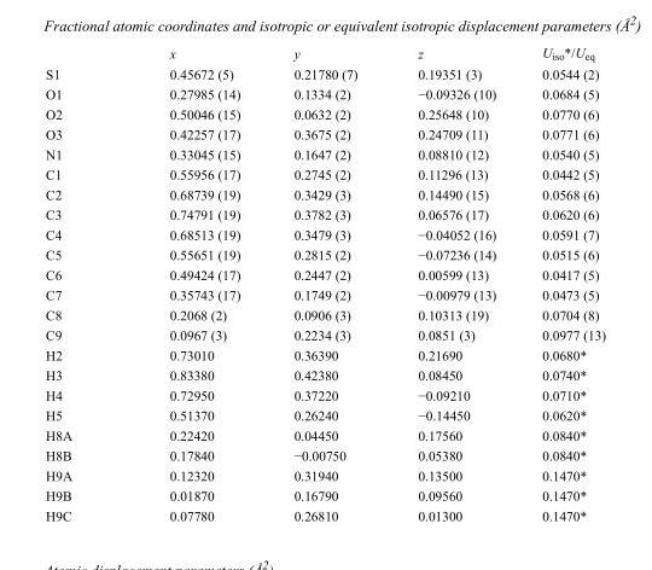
<table><thead><tr><td></td><td>x</td><td>y</td><td>z</td><td>U<sub>iso</sub>*/U<sub>eq</sub></td></tr></thead><tbody><tr><td>S1</td><td>0.45672 (5)</td><td>0.21780 (7)</td><td>0.19351 (3)</td><td>0.0544 (2)</td></tr><tr><td>O1</td><td>0.27985 (14)</td><td>0.1334 (2)</td><td>−0.09326 (10)</td><td>0.0684 (5)</td></tr><tr><td>O2</td><td>0.50046 (15)</td><td>0.0632 (2)</td><td>0.25648 (10)</td><td>0.0770 (6)</td></tr><tr><td>O3</td><td>0.42257 (17)</td><td>0.3675 (2)</td><td>0.24709 (11)</td><td>0.0771 (6)</td></tr><tr><td>N1</td><td>0.33045 (15)</td><td>0.1647 (2)</td><td>0.08810 (12)</td><td>0.0540 (5)</td></tr><tr><td>C1</td><td>0.55956 (17)</td><td>0.2745 (2)</td><td>0.11296 (13)</td><td>0.0442 (5)</td></tr><tr><td>C2</td><td>0.68739 (19)</td><td>0.3429 (3)</td><td>0.14490 (15)</td><td>0.0568 (6)</td></tr><tr><td>C3</td><td>0.74791 (19)</td><td>0.3782 (3)</td><td>0.06576 (17)</td><td>0.0620 (6)</td></tr><tr><td>C4</td><td>0.68513 (19)</td><td>0.3479 (3)</td><td>−0.04052 (16)</td><td>0.0591 (7)</td></tr><tr><td>C5</td><td>0.55651 (19)</td><td>0.2815 (2)</td><td>−0.07236 (14)</td><td>0.0515 (6)</td></tr><tr><td>C6</td><td>0.49424 (17)</td><td>0.2447 (2)</td><td>0.00599 (13)</td><td>0.0417 (5)</td></tr><tr><td>C7</td><td>0.35743 (17)</td><td>0.1749 (2)</td><td>−0.00979 (13)</td><td>0.0473 (5)</td></tr><tr><td>C8</td><td>0.2068 (2)</td><td>0.0906 (3)</td><td>0.10313 (19)</td><td>0.0704 (8)</td></tr><tr><td>C9</td><td>0.0967 (3)</td><td>0.2234 (3)</td><td>0.0851 (3)</td><td>0.0977 (13)</td></tr><tr><td>H2</td><td>0.73010</td><td>0.36390</td><td>0.21690</td><td>0.0680*</td></tr><tr><td>H3</td><td>0.83380</td><td>0.42380</td><td>0.08450</td><td>0.0740*</td></tr><tr><td>H4</td><td>0.72950</td><td>0.37220</td><td>−0.09210</td><td>0.0710*</td></tr><tr><td>H5</td><td>0.51370</td><td>0.26240</td><td>−0.14450</td><td>0.0620*</td></tr><tr><td>H8A</td><td>0.22420</td><td>0.04450</td><td>0.17560</td><td>0.0840*</td></tr><tr><td>H8B</td><td>0.17840</td><td>−0.00750</td><td>0.05380</td><td>0.0840*</td></tr><tr><td>H9A</td><td>0.12320</td><td>0.31940</td><td>0.13500</td><td>0.1470*</td></tr><tr><td>H9B</td><td>0.01870</td><td>0.16790</td><td>0.09560</td><td>0.1470*</td></tr><tr><td>H9C</td><td>0.07780</td><td>0.26810</td><td>0.01300</td><td>0.1470*</td></tr></tbody></table>